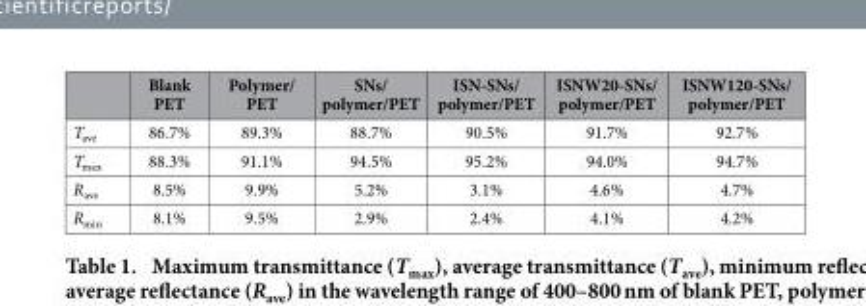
<table><thead><tr><td></td><td>Blank PET</td><td>Polymer/ PET</td><td>SNs/ polymer/PET</td><td>ISN-SNs/ polymer/PET</td><td>ISNW20-SNs/ polymer/PET</td><td>ISNW120-SNs/ polymer/PET</td></tr></thead><tbody><tr><td>T<sub>ave</sub></td><td>86.7%</td><td>89.3%</td><td>88.7%</td><td>90.5%</td><td>91.7%</td><td>92.7%</td></tr><tr><td>T<sub>max</sub></td><td>88.3%</td><td>91.1%</td><td>94.5%</td><td>95.2%</td><td>94.0%</td><td>94.7%</td></tr><tr><td>R<sub>ave</sub></td><td>8.5%</td><td>9.9%</td><td>5.2%</td><td>3.1%</td><td>4.6%</td><td>4.7%</td></tr><tr><td>R<sub>min</sub></td><td>8.1%</td><td>9.5%</td><td>2.9%</td><td>2.4%</td><td>4.1%</td><td>4.2%</td></tr></tbody></table>